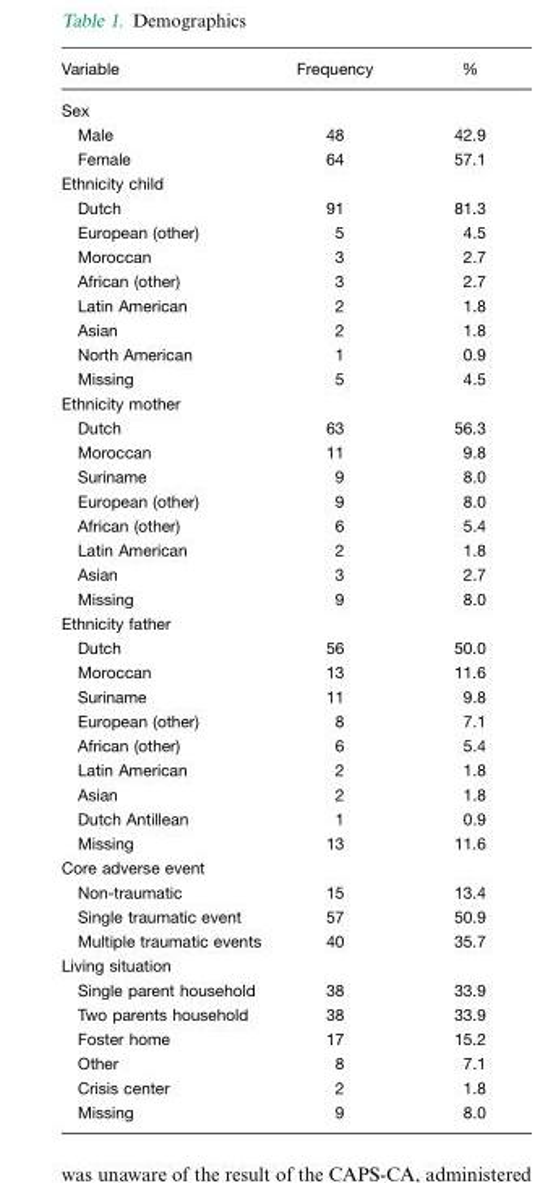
<table><thead><tr><td>Variable</td><td>Frequency</td><td>%</td></tr></thead><tbody><tr><td colspan="3">Sex</td></tr><tr><td>Male</td><td>48</td><td>42.9</td></tr><tr><td>Female</td><td>64</td><td>57.1</td></tr><tr><td colspan="3">Ethnicity child</td></tr><tr><td>Dutch</td><td>91</td><td>81.3</td></tr><tr><td>European (other)</td><td>5</td><td>4.5</td></tr><tr><td>Moroccan</td><td>3</td><td>2.7</td></tr><tr><td>African (other)</td><td>3</td><td>2.7</td></tr><tr><td>Latin American</td><td>2</td><td>1.8</td></tr><tr><td>Asian</td><td>2</td><td>1.8</td></tr><tr><td>North American</td><td>1</td><td>0.9</td></tr><tr><td>Missing</td><td>5</td><td>4.5</td></tr><tr><td colspan="3">Ethnicity mother</td></tr><tr><td>Dutch</td><td>63</td><td>56.3</td></tr><tr><td>Moroccan</td><td>11</td><td>9.8</td></tr><tr><td>Suriname</td><td>9</td><td>8.0</td></tr><tr><td>European (other)</td><td>9</td><td>8.0</td></tr><tr><td>African (other)</td><td>6</td><td>5.4</td></tr><tr><td>Latin American</td><td>2</td><td>1.8</td></tr><tr><td>Asian</td><td>3</td><td>2.7</td></tr><tr><td>Missing</td><td>9</td><td>8.0</td></tr><tr><td colspan="3">Ethnicity father</td></tr><tr><td>Dutch</td><td>56</td><td>50.0</td></tr><tr><td>Moroccan</td><td>13</td><td>11.6</td></tr><tr><td>Suriname</td><td>11</td><td>9.8</td></tr><tr><td>European (other)</td><td>8</td><td>7.1</td></tr><tr><td>African (other)</td><td>6</td><td>5.4</td></tr><tr><td>Latin American</td><td>2</td><td>1.8</td></tr><tr><td>Asian</td><td>2</td><td>1.8</td></tr><tr><td>Dutch Antillean</td><td>1</td><td>0.9</td></tr><tr><td>Missing</td><td>13</td><td>11.6</td></tr><tr><td colspan="3">Core adverse event</td></tr><tr><td>Non-traumatic</td><td>15</td><td>13.4</td></tr><tr><td>Single traumatic event</td><td>57</td><td>50.9</td></tr><tr><td>Multiple traumatic events</td><td>40</td><td>35.7</td></tr><tr><td colspan="3">Living situation</td></tr><tr><td>Single parent household</td><td>38</td><td>33.9</td></tr><tr><td>Two parents household</td><td>38</td><td>33.9</td></tr><tr><td>Foster home</td><td>17</td><td>15.2</td></tr><tr><td>Other</td><td>8</td><td>7.1</td></tr><tr><td>Crisis center</td><td>2</td><td>1.8</td></tr><tr><td>Missing</td><td>9</td><td>8.0</td></tr></tbody></table>